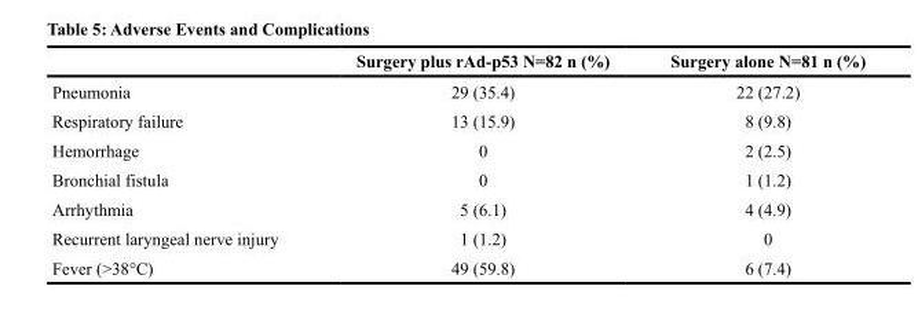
<table><thead><tr><td></td><td>Surgery plus rAd-p53 N=82 n (%)</td><td>Surgery alone N=81 n (%)</td></tr></thead><tbody><tr><td>Pneumonia</td><td>29 (35.4)</td><td>22 (27.2)</td></tr><tr><td>Respiratory failure</td><td>13 (15.9)</td><td>8 (9.8)</td></tr><tr><td>Hemorrhage</td><td>0</td><td>2 (2.5)</td></tr><tr><td>Bronchial fistula</td><td>0</td><td>1 (1.2)</td></tr><tr><td>Arrhythmia</td><td>5 (6.1)</td><td>4 (4.9)</td></tr><tr><td>Recurrent laryngeal nerve injury</td><td>1 (1.2)</td><td>0</td></tr><tr><td>Fever (&gt;38°C)</td><td>49 (59.8)</td><td>6 (7.4)</td></tr></tbody></table>